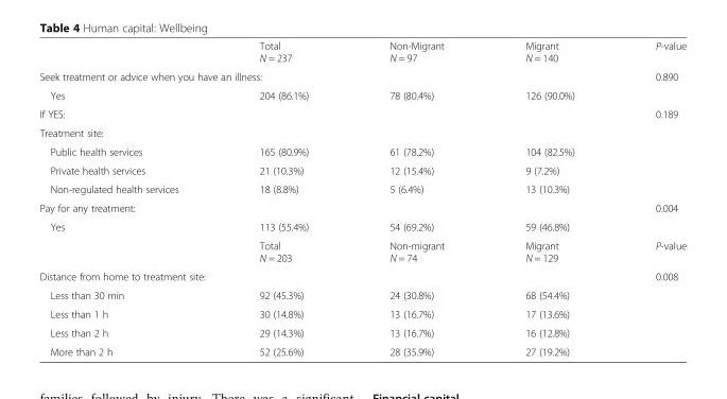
<table><thead><tr><td></td><td>Total N = 237</td><td>Non-Migrant N = 97</td><td>Migrant N = 140</td><td>P-value</td></tr></thead><tbody><tr><td colspan="4">Seek treatment or advice when you have an illness:</td><td>0.890</td></tr><tr><td>Yes</td><td>204 (86.1%)</td><td>78 (80.4%)</td><td>126 (90.0%)</td><td></td></tr><tr><td>If YES:</td><td rowspan="2"></td><td rowspan="2"></td><td rowspan="2"></td><td rowspan="2">0.189</td></tr><tr><td>Treatment site:</td></tr><tr><td>Public health services</td><td>165 (80.9%)</td><td>61 (78.2%)</td><td>104 (82.5%)</td><td></td></tr><tr><td>Private health services</td><td>21 (10.3%)</td><td>12 (15.4%)</td><td>9 (7.2%)</td><td></td></tr><tr><td>Non-regulated health services</td><td>18 (8.8%)</td><td>5 (6.4%)</td><td>13 (10.3%)</td><td></td></tr><tr><td colspan="2">Pay for any treatment:</td><td></td><td></td><td>0.004</td></tr><tr><td rowspan="2">Yes</td><td>113 (55.4%)</td><td>54 (69.2%)</td><td>59 (46.8%)</td><td></td></tr><tr><td>Total N = 203</td><td>Non-migrant N = 74</td><td>Migrant N = 129</td><td>P-value</td></tr><tr><td colspan="4">Distance from home to treatment site:</td><td>0.008</td></tr><tr><td>Less than 30 min</td><td>92 (45.3%)</td><td>24 (30.8%)</td><td>68 (54.4%)</td><td></td></tr><tr><td>Less than 1 h</td><td>30 (14.8%)</td><td>13 (16.7%)</td><td>17 (13.6%)</td><td></td></tr><tr><td>Less than 2 h</td><td>29 (14.3%)</td><td>13 (16.7%)</td><td>16 (12.8%)</td><td></td></tr><tr><td>More than 2 h</td><td>52 (25.6%)</td><td>28 (35.9%)</td><td>27 (19.2%)</td><td></td></tr></tbody></table>